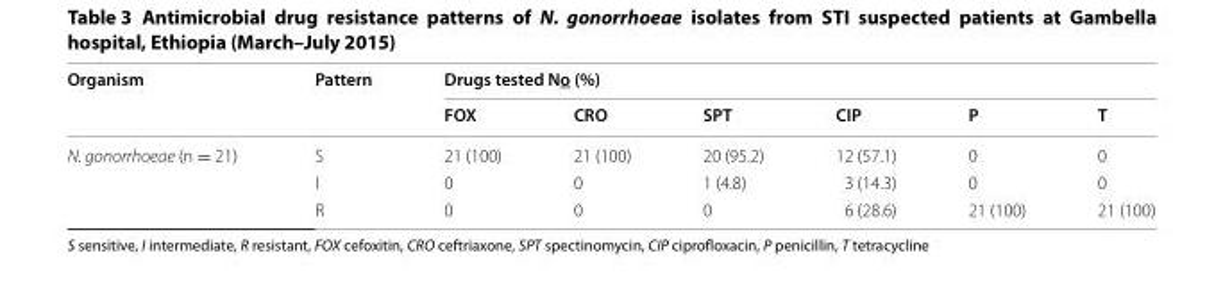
<table><thead><tr><td rowspan="2">Organism</td><td rowspan="2">Pattern</td><td colspan="6">Drugs tested No (%)</td></tr><tr><td>FOX</td><td>CRO</td><td>SPT</td><td>CIP</td><td>P</td><td>T</td></tr></thead><tbody><tr><td rowspan="3">N. gonorrhoeae (n = 21)</td><td>S</td><td>21 (100)</td><td>21 (100)</td><td>20 (95.2)</td><td>12 (57.1)</td><td>0</td><td>0</td></tr><tr><td>I</td><td>0</td><td>0</td><td>1 (4.8)</td><td>3 (14.3)</td><td>0</td><td>0</td></tr><tr><td>R</td><td>0</td><td>0</td><td>0</td><td>6 (28.6)</td><td>21 (100)</td><td>21 (100)</td></tr></tbody></table>